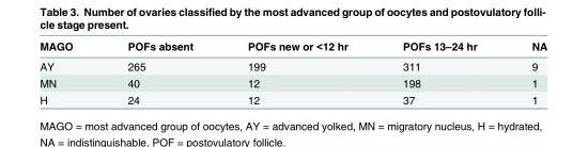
<table><thead><tr><td>MAGO</td><td>POFs absent</td><td>POFs new or &lt;12 hr</td><td>POFs 13–24 hr</td><td>NA</td></tr></thead><tbody><tr><td>AY</td><td>265</td><td>199</td><td>311</td><td>9</td></tr><tr><td>MN</td><td>40</td><td>12</td><td>198</td><td>1</td></tr><tr><td>H</td><td>24</td><td>12</td><td>37</td><td>1</td></tr></tbody></table>